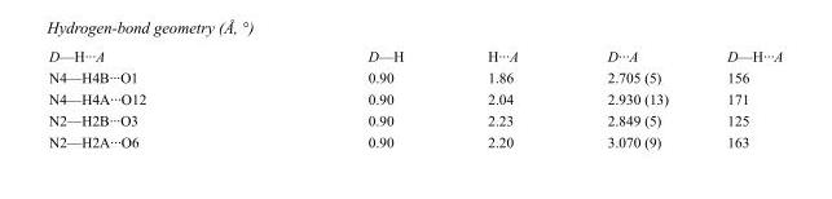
<table><tbody><tr><td>D—H···A</td><td>D—H</td><td>H···A</td><td>D···A</td><td>D—H···A</td></tr><tr><td>N4—H4B···O1</td><td>0.90</td><td>1.86</td><td>2.705 (5)</td><td>156</td></tr><tr><td>N4—H4A···O12</td><td>0.90</td><td>2.04</td><td>2.930 (13)</td><td>171</td></tr><tr><td>N2—H2B···O3</td><td>0.90</td><td>2.23</td><td>2.849 (5)</td><td>125</td></tr><tr><td>N2—H2A···O6</td><td>0.90</td><td>2.20</td><td>3.070 (9)</td><td>163</td></tr></tbody></table>